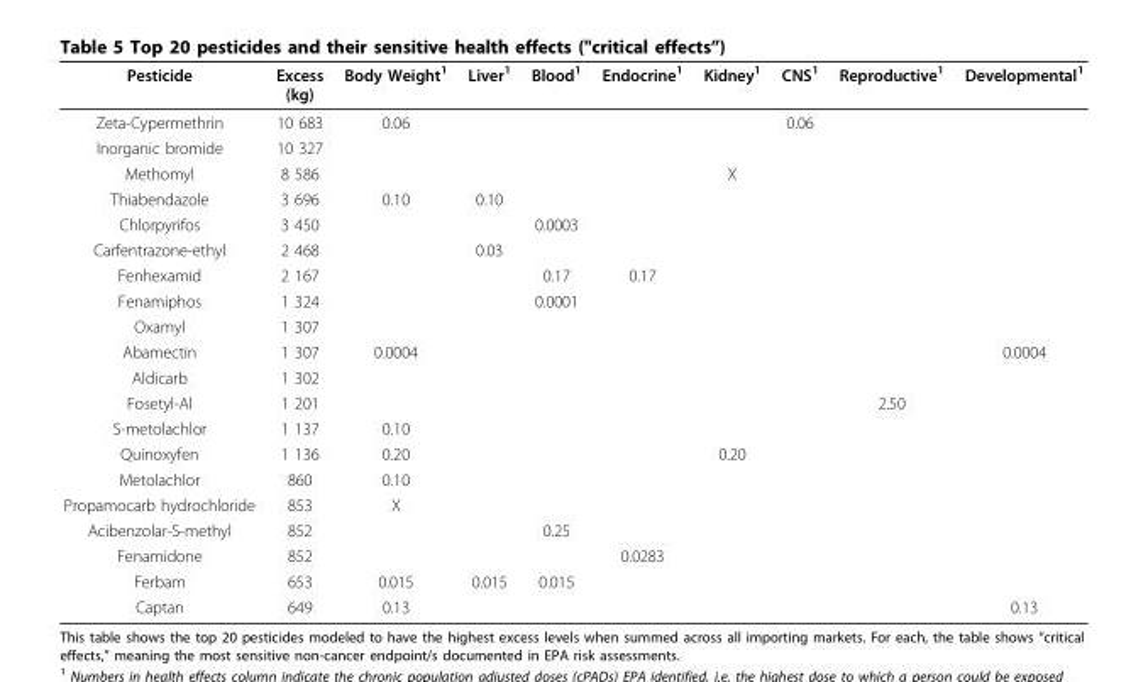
<table><thead><tr><td>Pesticide</td><td>Excess (kg)</td><td>Body Weight<sup>1</sup></td><td>Liver<sup>1</sup></td><td>Blood<sup>1</sup></td><td>Endocrine<sup>1</sup></td><td>Kidney<sup>1</sup></td><td>CNS<sup>1</sup></td><td>Reproductive<sup>1</sup></td><td>Developmental<sup>1</sup></td></tr></thead><tbody><tr><td>Zeta-Cypermethrin</td><td>10 683</td><td>0.06</td><td></td><td></td><td></td><td></td><td>0.06</td><td></td><td></td></tr><tr><td>Inorganic bromide</td><td>10 327</td><td></td><td></td><td></td><td></td><td></td><td></td><td></td><td></td></tr><tr><td>Methomyl</td><td>8 586</td><td></td><td></td><td></td><td></td><td>X</td><td></td><td></td><td></td></tr><tr><td>Thiabendazole</td><td>3 696</td><td>0.10</td><td>0.10</td><td></td><td></td><td></td><td></td><td></td><td></td></tr><tr><td>Chlorpyrifos</td><td>3 450</td><td></td><td></td><td>0.0003</td><td></td><td></td><td></td><td></td><td></td></tr><tr><td>Carfentrazone-ethyl</td><td>2 468</td><td></td><td>0.03</td><td></td><td></td><td></td><td></td><td></td><td></td></tr><tr><td>Fenhexamid</td><td>2 167</td><td></td><td></td><td>0.17</td><td>0.17</td><td></td><td></td><td></td><td></td></tr><tr><td>Fenamiphos</td><td>1 324</td><td></td><td></td><td>0.0001</td><td></td><td></td><td></td><td></td><td></td></tr><tr><td>Oxamyl</td><td>1 307</td><td></td><td></td><td></td><td></td><td></td><td></td><td></td><td></td></tr><tr><td>Abamectin</td><td>1 307</td><td>0.0004</td><td></td><td></td><td></td><td></td><td></td><td></td><td>0.0004</td></tr><tr><td>Aldicarb</td><td>1 302</td><td></td><td></td><td></td><td></td><td></td><td></td><td></td><td></td></tr><tr><td>Fosetyl-Al</td><td>1 201</td><td></td><td></td><td></td><td></td><td></td><td></td><td>2.50</td><td></td></tr><tr><td>S-metolachlor</td><td>1 137</td><td>0.10</td><td></td><td></td><td></td><td></td><td></td><td></td><td></td></tr><tr><td>Quinoxyfen</td><td>1 136</td><td>0.20</td><td></td><td></td><td></td><td>0.20</td><td></td><td></td><td></td></tr><tr><td>Metolachlor</td><td>860</td><td>0.10</td><td></td><td></td><td></td><td></td><td></td><td></td><td></td></tr><tr><td>Propamocarb hydrochloride</td><td>853</td><td>X</td><td></td><td></td><td></td><td></td><td></td><td></td><td></td></tr><tr><td>Acibenzolar-S-methyl</td><td>852</td><td></td><td></td><td>0.25</td><td></td><td></td><td></td><td></td><td></td></tr><tr><td>Fenamidone</td><td>852</td><td></td><td></td><td></td><td>0.0283</td><td></td><td></td><td></td><td></td></tr><tr><td>Ferbam</td><td>653</td><td>0.015</td><td>0.015</td><td>0.015</td><td></td><td></td><td></td><td></td><td></td></tr><tr><td>Captan</td><td>649</td><td>0.13</td><td></td><td></td><td></td><td></td><td></td><td></td><td>0.13</td></tr></tbody></table>